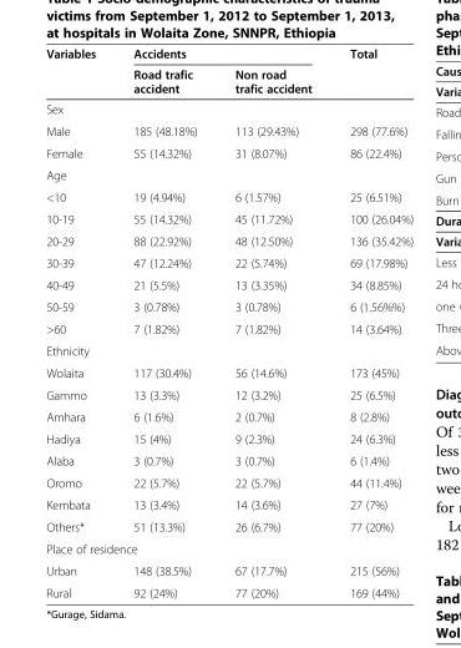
<table><thead><tr><td rowspan="2">Variables</td><td colspan="2">Accidents</td><td rowspan="2">Total</td></tr><tr><td>Road trafic accident</td><td>Non road trafic accident</td></tr></thead><tbody><tr><td colspan="4">Sex</td></tr><tr><td>Male</td><td>185 (48.18%)</td><td>113 (29.43%)</td><td>298 (77.6%)</td></tr><tr><td>Female</td><td>55 (14.32%)</td><td>31 (8.07%)</td><td>86 (22.4%)</td></tr><tr><td colspan="4">Age</td></tr><tr><td>&lt;10</td><td>19 (4.94%)</td><td>6 (1.57%)</td><td>25 (6.51%)</td></tr><tr><td>10-19</td><td>55 (14.32%)</td><td>45 (11.72%)</td><td>100 (26.04%)</td></tr><tr><td>20-29</td><td>88 (22.92%)</td><td>48 (12.50%)</td><td>136 (35.42%)</td></tr><tr><td>30-39</td><td>47 (12.24%)</td><td>22 (5.74%)</td><td>69 (17.98%)</td></tr><tr><td>40-49</td><td>21 (5.5%)</td><td>13 (3.35%)</td><td>34 (8.85%)</td></tr><tr><td>50-59</td><td>3 (0.78%)</td><td>3 (0.78%)</td><td>6 (1.56%%)</td></tr><tr><td>&gt;60</td><td>7 (1.82%)</td><td>7 (1.82%)</td><td>14 (3.64%)</td></tr><tr><td colspan="4">Ethnicity</td></tr><tr><td>Wolaita</td><td>117 (30.4%)</td><td>56 (14.6%)</td><td>173 (45%)</td></tr><tr><td>Gammo</td><td>13 (3.3%)</td><td>12 (3.2%)</td><td>25 (6.5%)</td></tr><tr><td>Amhara</td><td>6 (1.6%)</td><td>2 (0.7%)</td><td>8 (2.8%)</td></tr><tr><td>Hadiya</td><td>15 (4%)</td><td>9 (2.3%)</td><td>24 (6.3%)</td></tr><tr><td>Alaba</td><td>3 (0.7%)</td><td>3 (0.7%)</td><td>6 (1.4%)</td></tr><tr><td>Oromo</td><td>22 (5.7%)</td><td>22 (5.7%)</td><td>44 (11.4%)</td></tr><tr><td>Kembata</td><td>13 (3.4%)</td><td>14 (3.6%)</td><td>27 (7%)</td></tr><tr><td>Others*</td><td>51 (13.3%)</td><td>26 (6.7%)</td><td>77 (20%)</td></tr><tr><td colspan="4">Place of residence</td></tr><tr><td>Urban</td><td>148 (38.5%)</td><td>67 (17.7%)</td><td>215 (56%)</td></tr><tr><td>Rural</td><td>92 (24%)</td><td>77 (20%)</td><td>169 (44%)</td></tr></tbody></table>